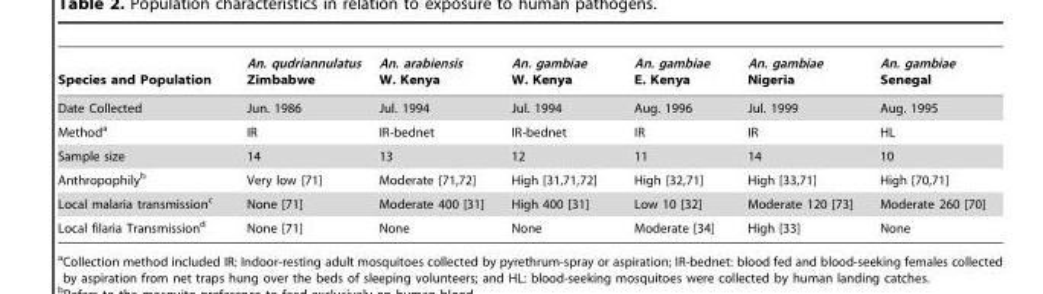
<table><thead><tr><td>Species and Population</td><td>An. qudriannulatus Zimbabwe</td><td>An. arabiensis W. Kenya</td><td>An. gambiae W. Kenya</td><td>An. gambiae E. Kenya</td><td>An. gambiae Nigeria</td><td>An. gambiae Senegal</td></tr></thead><tbody><tr><td>Date Collected</td><td>Jun. 1986</td><td>Jul. 1994</td><td>Jul. 1994</td><td>Aug. 1996</td><td>Jul. 1999</td><td>Aug. 1995</td></tr><tr><td>Method<sup>a</sup></td><td>IR</td><td>IR-bednet</td><td>IR-bednet</td><td>IR</td><td>IR</td><td>HL</td></tr><tr><td>Sample size</td><td>14</td><td>13</td><td>12</td><td>11</td><td>14</td><td>10</td></tr><tr><td>Anthropophily<sup>b</sup></td><td>Very low [71]</td><td>Moderate [71,72]</td><td>High [31,71,72]</td><td>High [32,71]</td><td>High [33,71]</td><td>High [70,71]</td></tr><tr><td>Local malaria transmission<sup>c</sup></td><td>None [71]</td><td>Moderate 400 [31]</td><td>High 400 [31]</td><td>Low 10 [32]</td><td>Moderate 120 [73]</td><td>Moderate 260 [70]</td></tr><tr><td>Local filaria Transmission<sup>d</sup></td><td>None [71]</td><td>None</td><td>None</td><td>Moderate [34]</td><td>High [33]</td><td>None</td></tr></tbody></table>